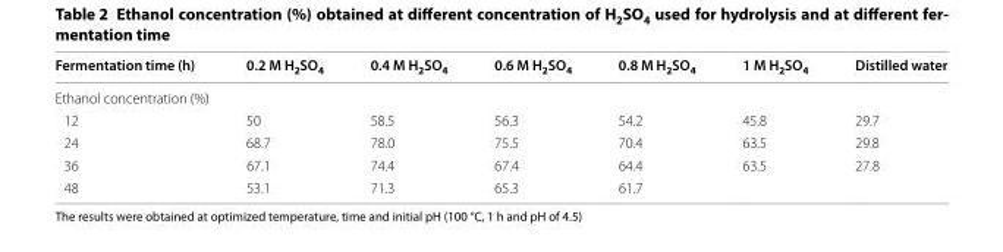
<table><thead><tr><td>Fermentation time (h)</td><td>0.2 M H<sub>2</sub>SO<sub>4</sub></td><td>0.4 M H<sub>2</sub>SO<sub>4</sub></td><td>0.6 M H<sub>2</sub>SO<sub>4</sub></td><td>0.8 M H<sub>2</sub>SO<sub>4</sub></td><td>1 M H<sub>2</sub>SO<sub>4</sub></td><td>Distilled water</td></tr></thead><tbody><tr><td colspan="7">Ethanol concentration (%)</td></tr><tr><td>12</td><td>50</td><td>58.5</td><td>56.3</td><td>54.2</td><td>45.8</td><td>29.7</td></tr><tr><td>24</td><td>68.7</td><td>78.0</td><td>75.5</td><td>70.4</td><td>63.5</td><td>29.8</td></tr><tr><td>36</td><td>67.1</td><td>74.4</td><td>67.4</td><td>64.4</td><td>63.5</td><td>27.8</td></tr><tr><td>48</td><td>53.1</td><td>71.3</td><td>65.3</td><td>61.7</td><td></td><td></td></tr></tbody></table>